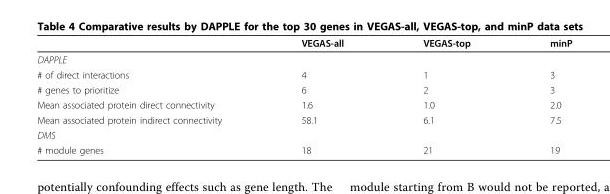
<table><thead><tr><td></td><td>VEGAS-all</td><td>VEGAS-top</td><td>minP</td></tr></thead><tbody><tr><td colspan="4">DAPPLE</td></tr><tr><td># of direct interactions</td><td>4</td><td>1</td><td>3</td></tr><tr><td># genes to prioritize</td><td>6</td><td>2</td><td>3</td></tr><tr><td>Mean associated protein direct connectivity</td><td>1.6</td><td>1.0</td><td>2.0</td></tr><tr><td>Mean associated protein indirect connectivity</td><td>58.1</td><td>6.1</td><td>7.5</td></tr><tr><td colspan="4">DMS</td></tr><tr><td># module genes</td><td>18</td><td>21</td><td>19</td></tr></tbody></table>